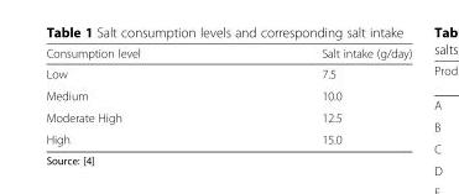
<table><thead><tr><td>Consumption level</td><td>Salt intake (g/day)</td></tr></thead><tbody><tr><td>Low</td><td>7.5</td></tr><tr><td>Medium</td><td>10.0</td></tr><tr><td>Moderate High</td><td>12.5</td></tr><tr><td>High</td><td>15.0</td></tr></tbody></table>